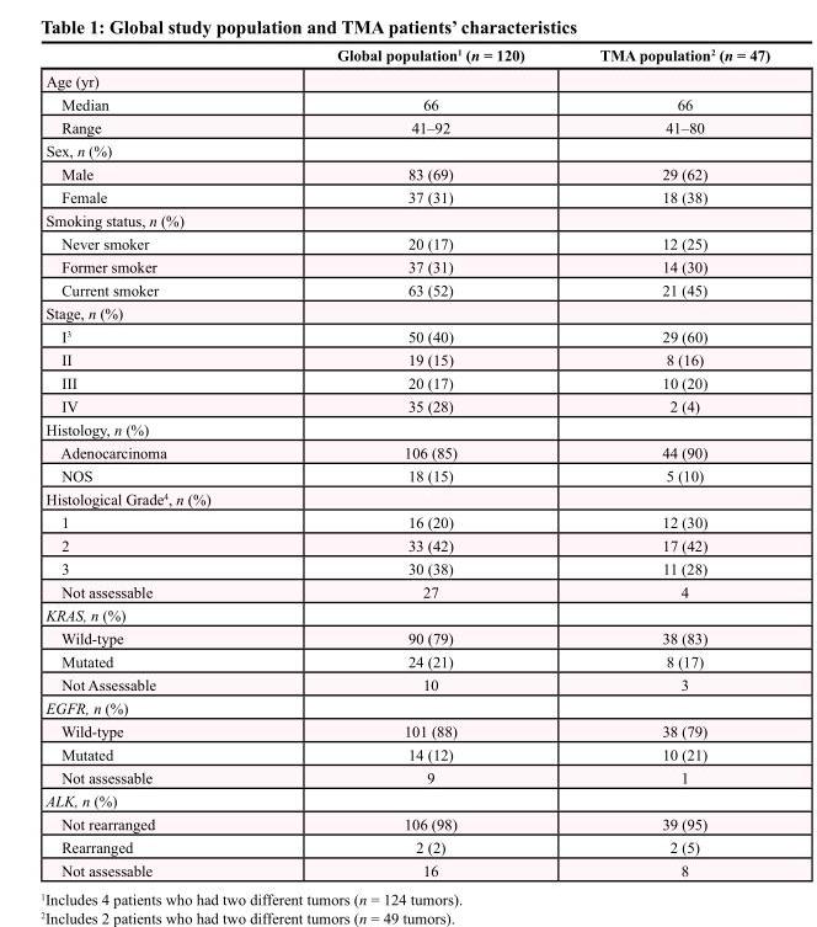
<table><thead><tr><td></td><td>Global population<sup>1</sup> (n = 120)</td><td>TMA population<sup>2</sup> (n = 47)</td></tr></thead><tbody><tr><td colspan="3">Age (yr)</td></tr><tr><td>Median</td><td>66</td><td>66</td></tr><tr><td>Range</td><td>41–92</td><td>41–80</td></tr><tr><td colspan="3">Sex, n (%)</td></tr><tr><td>Male</td><td>83 (69)</td><td>29 (62)</td></tr><tr><td>Female</td><td>37 (31)</td><td>18 (38)</td></tr><tr><td colspan="3">Smoking status, n (%)</td></tr><tr><td>Never smoker</td><td>20 (17)</td><td>12 (25)</td></tr><tr><td>Former smoker</td><td>37 (31)</td><td>14 (30)</td></tr><tr><td>Current smoker</td><td>63 (52)</td><td>21 (45)</td></tr><tr><td colspan="3">Stage, n (%)</td></tr><tr><td>I<sup>3</sup></td><td>50 (40)</td><td>29 (60)</td></tr><tr><td>II</td><td>19 (15)</td><td>8 (16)</td></tr><tr><td>III</td><td>20 (17)</td><td>10 (20)</td></tr><tr><td>IV</td><td>35 (28)</td><td>2 (4)</td></tr><tr><td colspan="3">Histology, n (%)</td></tr><tr><td>Adenocarcinoma</td><td>106 (85)</td><td>44 (90)</td></tr><tr><td>NOS</td><td>18 (15)</td><td>5 (10)</td></tr><tr><td colspan="3">Histological Grade<sup>4</sup>, n (%)</td></tr><tr><td>1</td><td>16 (20)</td><td>12 (30)</td></tr><tr><td>2</td><td>33 (42)</td><td>17 (42)</td></tr><tr><td>3</td><td>30 (38)</td><td>11 (28)</td></tr><tr><td>Not assessable</td><td>27</td><td>4</td></tr><tr><td colspan="3">KRAS, n (%)</td></tr><tr><td>Wild-type</td><td>90 (79)</td><td>38 (83)</td></tr><tr><td>Mutated</td><td>24 (21)</td><td>8 (17)</td></tr><tr><td>Not Assessable</td><td>10</td><td>3</td></tr><tr><td colspan="3">EGFR, n (%)</td></tr><tr><td>Wild-type</td><td>101 (88)</td><td>38 (79)</td></tr><tr><td>Mutated</td><td>14 (12)</td><td>10 (21)</td></tr><tr><td>Not assessable</td><td>9</td><td>1</td></tr><tr><td colspan="3">ALK, n (%)</td></tr><tr><td>Not rearranged</td><td>106 (98)</td><td>39 (95)</td></tr><tr><td>Rearranged</td><td>2 (2)</td><td>2 (5)</td></tr><tr><td>Not assessable</td><td>16</td><td>8</td></tr></tbody></table>